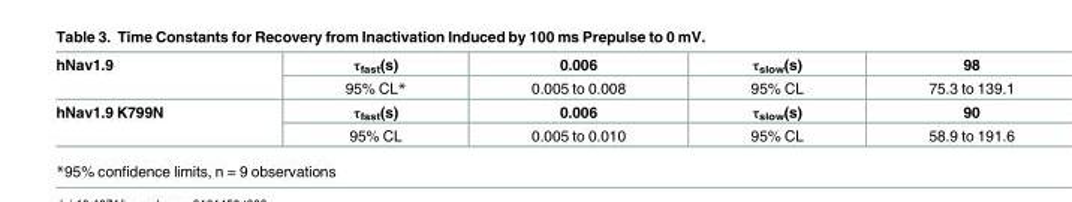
<table><tbody><tr><td rowspan="2">hNav1.9</td><td>τ<sub>fast</sub>(s)</td><td>0.006</td><td>τ<sub>slow</sub>(s)</td><td>98</td></tr><tr><td>95% CL*</td><td>0.005 to 0.008</td><td>95% CL</td><td>75.3 to 139.1</td></tr><tr><td rowspan="2">hNav1.9 K799N</td><td>τ<sub>fast</sub>(s)</td><td>0.006</td><td>τ<sub>slow</sub>(s)</td><td>90</td></tr><tr><td>95% CL</td><td>0.005 to 0.010</td><td>95% CL</td><td>58.9 to 191.6</td></tr></tbody></table>